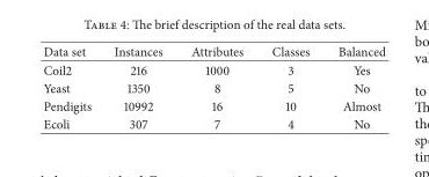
<table><thead><tr><td>Data set</td><td>Instances</td><td>Attributes</td><td>Classes</td><td>Balanced</td></tr></thead><tbody><tr><td>Coil2</td><td>216</td><td>1000</td><td>3</td><td>Yes</td></tr><tr><td>Yeast</td><td>1350</td><td>8</td><td>5</td><td>No</td></tr><tr><td>Pendigits</td><td>10992</td><td>16</td><td>10</td><td>Almost</td></tr><tr><td>Ecoli</td><td>307</td><td>7</td><td>4</td><td>No</td></tr></tbody></table>